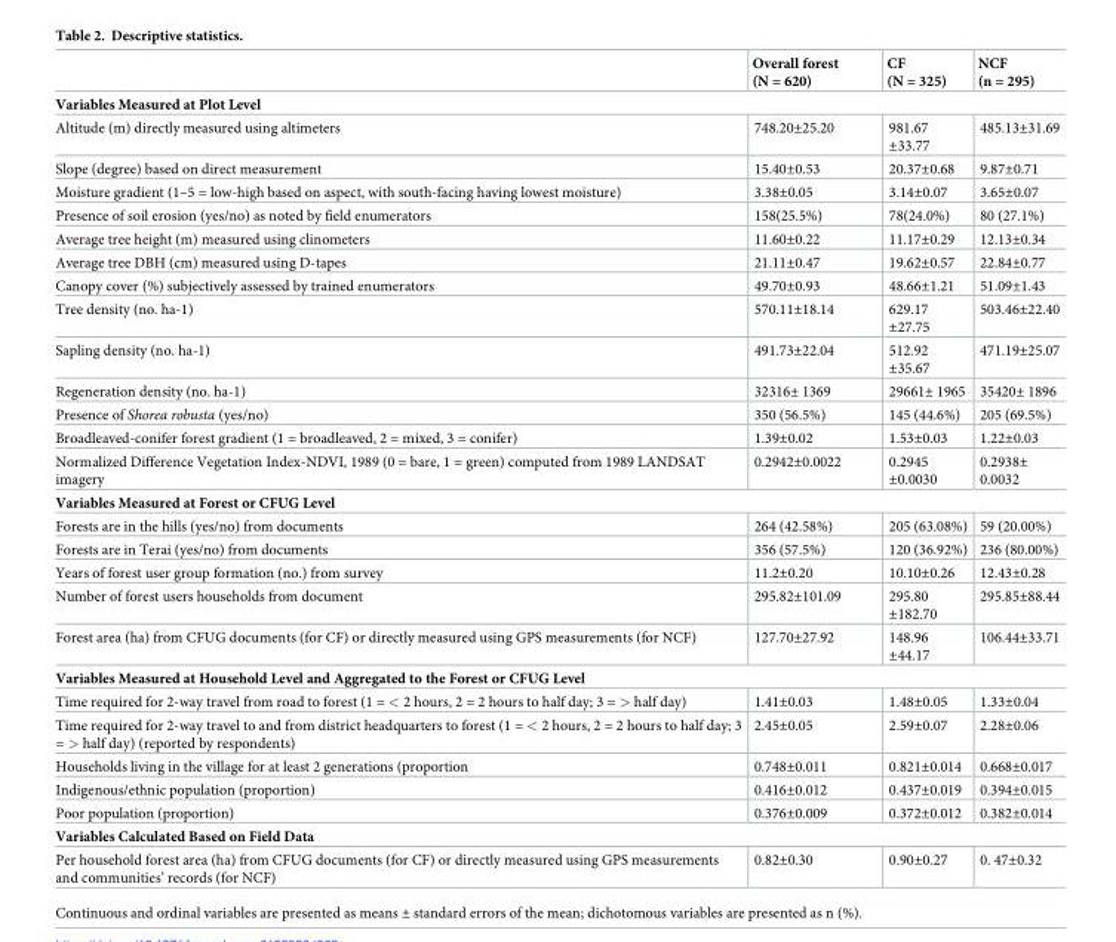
<table><thead><tr><td></td><td>Overall forest (N = 620)</td><td>CF (N = 325)</td><td>NCF (n = 295)</td></tr></thead><tbody><tr><td colspan="4">Variables Measured at Plot Level</td></tr><tr><td>Altitude (m) directly measured using altimeters</td><td>748.20±25.20</td><td>981.67 ±33.77</td><td>485.13±31.69</td></tr><tr><td>Slope (degree) based on direct measurement</td><td>15.40±0.53</td><td>20.37±0.68</td><td>9.87±0.71</td></tr><tr><td>Moisture gradient (1–5 = low-high based on aspect, with south-facing having lowest moisture)</td><td>3.38±0.05</td><td>3.14±0.07</td><td>3.65±0.07</td></tr><tr><td>Presence of soil erosion (yes/no) as noted by field enumerators</td><td>158(25.5%)</td><td>78(24.0%)</td><td>80 (27.1%)</td></tr><tr><td>Average tree height (m) measured using clinometers</td><td>11.60±0.22</td><td>11.17±0.29</td><td>12.13±0.34</td></tr><tr><td>Average tree DBH (cm) measured using D-tapes</td><td>21.11±0.47</td><td>19.62±0.57</td><td>22.84±0.77</td></tr><tr><td>Canopy cover (%) subjectively assessed by trained enumerators</td><td>49.70±0.93</td><td>48.66±1.21</td><td>51.09±1.43</td></tr><tr><td>Tree density (no. ha-1)</td><td>570.11±18.14</td><td>629.17 ±27.75</td><td>503.46±22.40</td></tr><tr><td>Sapling density (no. ha-1)</td><td>491.73±22.04</td><td>512.92 ±35.67</td><td>471.19±25.07</td></tr><tr><td>Regeneration density (no. ha-1)</td><td>32316± 1369</td><td>29661± 1965</td><td>35420± 1896</td></tr><tr><td>Presence of Shorea robusta (yes/no)</td><td>350 (56.5%)</td><td>145 (44.6%)</td><td>205 (69.5%)</td></tr><tr><td>Broadleaved-conifer forest gradient (1 = broadleaved, 2 = mixed, 3 = conifer)</td><td>1.39±0.02</td><td>1.53±0.03</td><td>1.22±0.03</td></tr><tr><td>Normalized Difference Vegetation Index-NDVI, 1989 (0 = bare, 1 = green) computed from 1989 LANDSAT imagery</td><td>0.2942±0.0022</td><td>0.2945 ±0.0030</td><td>0.2938± 0.0032</td></tr><tr><td colspan="4">Variables Measured at Forest or CFUG Level</td></tr><tr><td>Forests are in the hills (yes/no) from documents</td><td>264 (42.58%)</td><td>205 (63.08%)</td><td>59 (20.00%)</td></tr><tr><td>Forests are in Terai (yes/no) from documents</td><td>356 (57.5%)</td><td>120 (36.92%)</td><td>236 (80.00%)</td></tr><tr><td>Years of forest user group formation (no.) from survey</td><td>11.2±0.20</td><td>10.10±0.26</td><td>12.43±0.28</td></tr><tr><td>Number of forest users households from document</td><td>295.82±101.09</td><td>295.80 ±182.70</td><td>295.85±88.44</td></tr><tr><td>Forest area (ha) from CFUG documents (for CF) or directly measured using GPS measurements (for NCF)</td><td>127.70±27.92</td><td>148.96 ±44.17</td><td>106.44±33.71</td></tr><tr><td colspan="4">Variables Measured at Household Level and Aggregated to the Forest or CFUG Level</td></tr><tr><td>Time required for 2-way travel from road to forest (1 = &lt; 2 hours, 2 = 2 hours to half day; 3 = &gt; half day)</td><td>1.41±0.03</td><td>1.48±0.05</td><td>1.33±0.04</td></tr><tr><td>Time required for 2-way travel to and from district headquarters to forest (1 = &lt; 2 hours, 2 = 2 hours to half day; 3 = &gt; half day) (reported by respondents)</td><td>2.45±0.05</td><td>2.59±0.07</td><td>2.28±0.06</td></tr><tr><td>Households living in the village for at least 2 generations (proportion</td><td>0.748±0.011</td><td>0.821±0.014</td><td>0.668±0.017</td></tr><tr><td>Indigenous/ethnic population (proportion)</td><td>0.416±0.012</td><td>0.437±0.019</td><td>0.394±0.015</td></tr><tr><td>Poor population (proportion)</td><td>0.376±0.009</td><td>0.372±0.012</td><td>0.382±0.014</td></tr><tr><td colspan="4">Variables Calculated Based on Field Data</td></tr><tr><td>Per household forest area (ha) from CFUG documents (for CF) or directly measured using GPS measurements and communities’ records (for NCF)</td><td>0.82±0.30</td><td>0.90±0.27</td><td>0. 47±0.32</td></tr></tbody></table>